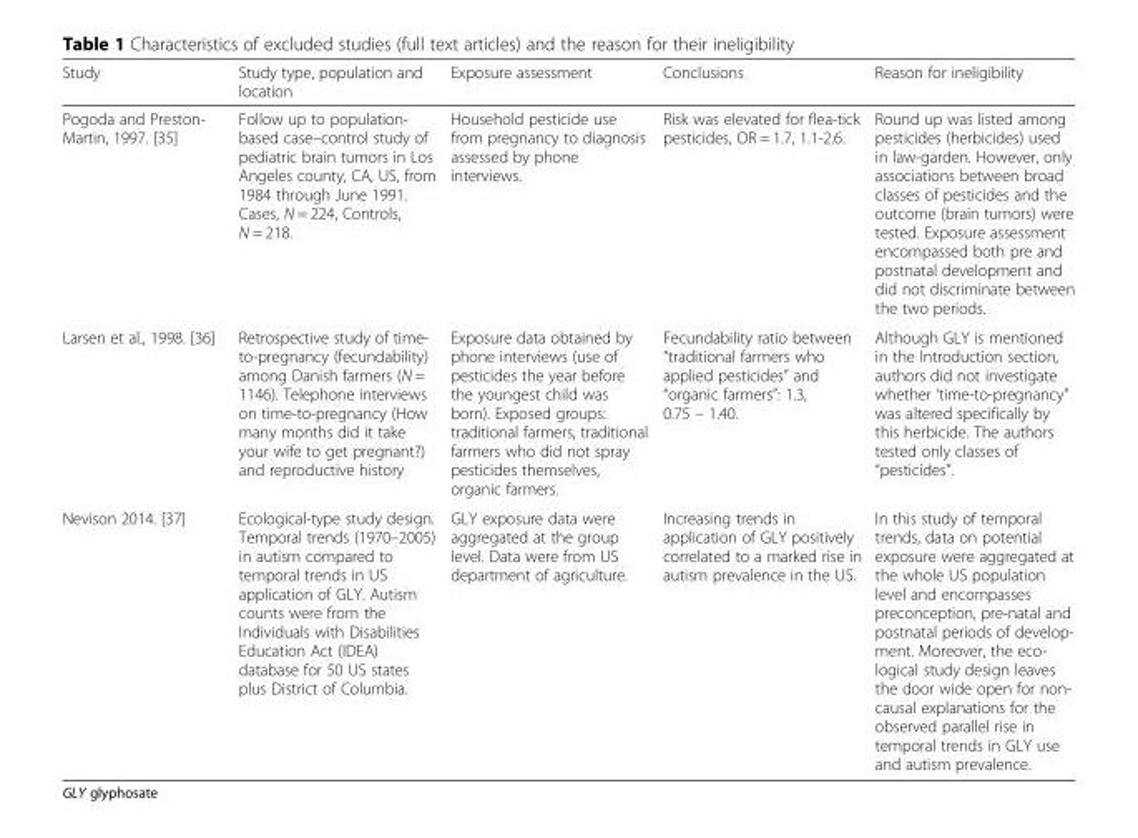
<table><thead><tr><td>Study</td><td>Study type, population and location</td><td>Exposure assessment</td><td>Conclusions</td><td>Reason for ineligibility</td></tr></thead><tbody><tr><td>Pogoda and Preston- Martin, 1997. [35]</td><td>Follow up to population- based case–control study of pediatric brain tumors in Los Angeles county, CA, US, from 1984 through June 1991. Cases, N = 224, Controls, N = 218.</td><td>Household pesticide use from pregnancy to diagnosis assessed by phone interviews.</td><td>Risk was elevated for flea-tick pesticides, OR = 1.7, 1.1-2.6.</td><td>Round up was listed among pesticides (herbicides) used in law-garden. However, only associations between broad classes of pesticides and the outcome (brain tumors) were tested. Exposure assessment encompassed both pre and postnatal development and did not discriminate between the two periods.</td></tr><tr><td>Larsen et al., 1998. [36]</td><td>Retrospective study of time- to-pregnancy (fecundability) among Danish farmers (N = 1146). Telephone interviews on time-to-pregnancy (How many months did it take your wife to get pregnant?) and reproductive history</td><td>Exposure data obtained by phone interviews (use of pesticides the year before the youngest child was born). Exposed groups: traditional farmers, traditional farmers who did not spray pesticides themselves, organic farmers.</td><td>Fecundability ratio between “traditional farmers who applied pesticides” and “organic farmers”: 1.3, 0.75 – 1.40.</td><td>Although GLY is mentioned in the Introduction section, authors did not investigate whether ‘time-to-pregnancy” was altered specifically by this herbicide. The authors tested only classes of “pesticides”.</td></tr><tr><td>Nevison 2014. [37]</td><td>Ecological-type study design. Temporal trends (1970–2005) in autism compared to temporal trends in US application of GLY. Autism counts were from the Individuals with Disabilities Education Act (IDEA) database for 50 US states plus District of Columbia.</td><td>GLY exposure data were aggregated at the group level. Data were from US department of agriculture.</td><td>Increasing trends in application of GLY positively correlated to a marked rise in autism prevalence in the US.</td><td>In this study of temporal trends, data on potential exposure were aggregated at the whole US population level and encompasses preconception, pre-natal and postnatal periods of develop- ment. Moreover, the eco- logical study design leaves the door wide open for non- causal explanations for the observed parallel rise in temporal trends in GLY use and autism prevalence.</td></tr></tbody></table>